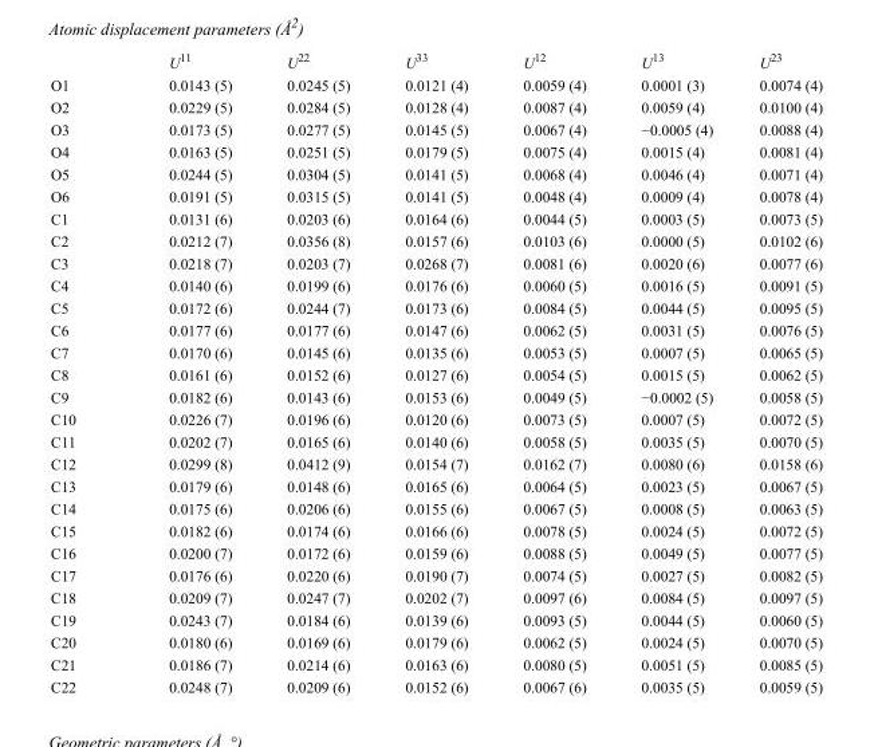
<table><thead><tr><td></td><td>U<sup>11</sup></td><td>U<sup>22</sup></td><td>U<sup>33</sup></td><td>U<sup>12</sup></td><td>U<sup>13</sup></td><td>U<sup>23</sup></td></tr></thead><tbody><tr><td>O1</td><td>0.0143 (5)</td><td>0.0245 (5)</td><td>0.0121 (4)</td><td>0.0059 (4)</td><td>0.0001 (3)</td><td>0.0074 (4)</td></tr><tr><td>O2</td><td>0.0229 (5)</td><td>0.0284 (5)</td><td>0.0128 (4)</td><td>0.0087 (4)</td><td>0.0059 (4)</td><td>0.0100 (4)</td></tr><tr><td>O3</td><td>0.0173 (5)</td><td>0.0277 (5)</td><td>0.0145 (5)</td><td>0.0067 (4)</td><td>−0.0005 (4)</td><td>0.0088 (4)</td></tr><tr><td>O4</td><td>0.0163 (5)</td><td>0.0251 (5)</td><td>0.0179 (5)</td><td>0.0075 (4)</td><td>0.0015 (4)</td><td>0.0081 (4)</td></tr><tr><td>O5</td><td>0.0244 (5)</td><td>0.0304 (5)</td><td>0.0141 (5)</td><td>0.0068 (4)</td><td>0.0046 (4)</td><td>0.0071 (4)</td></tr><tr><td>O6</td><td>0.0191 (5)</td><td>0.0315 (5)</td><td>0.0141 (5)</td><td>0.0048 (4)</td><td>0.0009 (4)</td><td>0.0078 (4)</td></tr><tr><td>C1</td><td>0.0131 (6)</td><td>0.0203 (6)</td><td>0.0164 (6)</td><td>0.0044 (5)</td><td>0.0003 (5)</td><td>0.0073 (5)</td></tr><tr><td>C2</td><td>0.0212 (7)</td><td>0.0356 (8)</td><td>0.0157 (6)</td><td>0.0103 (6)</td><td>0.0000 (5)</td><td>0.0102 (6)</td></tr><tr><td>C3</td><td>0.0218 (7)</td><td>0.0203 (7)</td><td>0.0268 (7)</td><td>0.0081 (6)</td><td>0.0020 (6)</td><td>0.0077 (6)</td></tr><tr><td>C4</td><td>0.0140 (6)</td><td>0.0199 (6)</td><td>0.0176 (6)</td><td>0.0060 (5)</td><td>0.0016 (5)</td><td>0.0091 (5)</td></tr><tr><td>C5</td><td>0.0172 (6)</td><td>0.0244 (7)</td><td>0.0173 (6)</td><td>0.0084 (5)</td><td>0.0044 (5)</td><td>0.0095 (5)</td></tr><tr><td>C6</td><td>0.0177 (6)</td><td>0.0177 (6)</td><td>0.0147 (6)</td><td>0.0062 (5)</td><td>0.0031 (5)</td><td>0.0076 (5)</td></tr><tr><td>C7</td><td>0.0170 (6)</td><td>0.0145 (6)</td><td>0.0135 (6)</td><td>0.0053 (5)</td><td>0.0007 (5)</td><td>0.0065 (5)</td></tr><tr><td>C8</td><td>0.0161 (6)</td><td>0.0152 (6)</td><td>0.0127 (6)</td><td>0.0054 (5)</td><td>0.0015 (5)</td><td>0.0062 (5)</td></tr><tr><td>C9</td><td>0.0182 (6)</td><td>0.0143 (6)</td><td>0.0153 (6)</td><td>0.0049 (5)</td><td>−0.0002 (5)</td><td>0.0058 (5)</td></tr><tr><td>C10</td><td>0.0226 (7)</td><td>0.0196 (6)</td><td>0.0120 (6)</td><td>0.0073 (5)</td><td>0.0007 (5)</td><td>0.0072 (5)</td></tr><tr><td>C11</td><td>0.0202 (7)</td><td>0.0165 (6)</td><td>0.0140 (6)</td><td>0.0058 (5)</td><td>0.0035 (5)</td><td>0.0070 (5)</td></tr><tr><td>C12</td><td>0.0299 (8)</td><td>0.0412 (9)</td><td>0.0154 (7)</td><td>0.0162 (7)</td><td>0.0080 (6)</td><td>0.0158 (6)</td></tr><tr><td>C13</td><td>0.0179 (6)</td><td>0.0148 (6)</td><td>0.0165 (6)</td><td>0.0064 (5)</td><td>0.0023 (5)</td><td>0.0067 (5)</td></tr><tr><td>C14</td><td>0.0175 (6)</td><td>0.0206 (6)</td><td>0.0155 (6)</td><td>0.0067 (5)</td><td>0.0008 (5)</td><td>0.0063 (5)</td></tr><tr><td>C15</td><td>0.0182 (6)</td><td>0.0174 (6)</td><td>0.0166 (6)</td><td>0.0078 (5)</td><td>0.0024 (5)</td><td>0.0072 (5)</td></tr><tr><td>C16</td><td>0.0200 (7)</td><td>0.0172 (6)</td><td>0.0159 (6)</td><td>0.0088 (5)</td><td>0.0049 (5)</td><td>0.0077 (5)</td></tr><tr><td>C17</td><td>0.0176 (6)</td><td>0.0220 (6)</td><td>0.0190 (7)</td><td>0.0074 (5)</td><td>0.0027 (5)</td><td>0.0082 (5)</td></tr><tr><td>C18</td><td>0.0209 (7)</td><td>0.0247 (7)</td><td>0.0202 (7)</td><td>0.0097 (6)</td><td>0.0084 (5)</td><td>0.0097 (5)</td></tr><tr><td>C19</td><td>0.0243 (7)</td><td>0.0184 (6)</td><td>0.0139 (6)</td><td>0.0093 (5)</td><td>0.0044 (5)</td><td>0.0060 (5)</td></tr><tr><td>C20</td><td>0.0180 (6)</td><td>0.0169 (6)</td><td>0.0179 (6)</td><td>0.0062 (5)</td><td>0.0024 (5)</td><td>0.0070 (5)</td></tr><tr><td>C21</td><td>0.0186 (7)</td><td>0.0214 (6)</td><td>0.0163 (6)</td><td>0.0080 (5)</td><td>0.0051 (5)</td><td>0.0085 (5)</td></tr><tr><td>C22</td><td>0.0248 (7)</td><td>0.0209 (6)</td><td>0.0152 (6)</td><td>0.0067 (6)</td><td>0.0035 (5)</td><td>0.0059 (5)</td></tr></tbody></table>